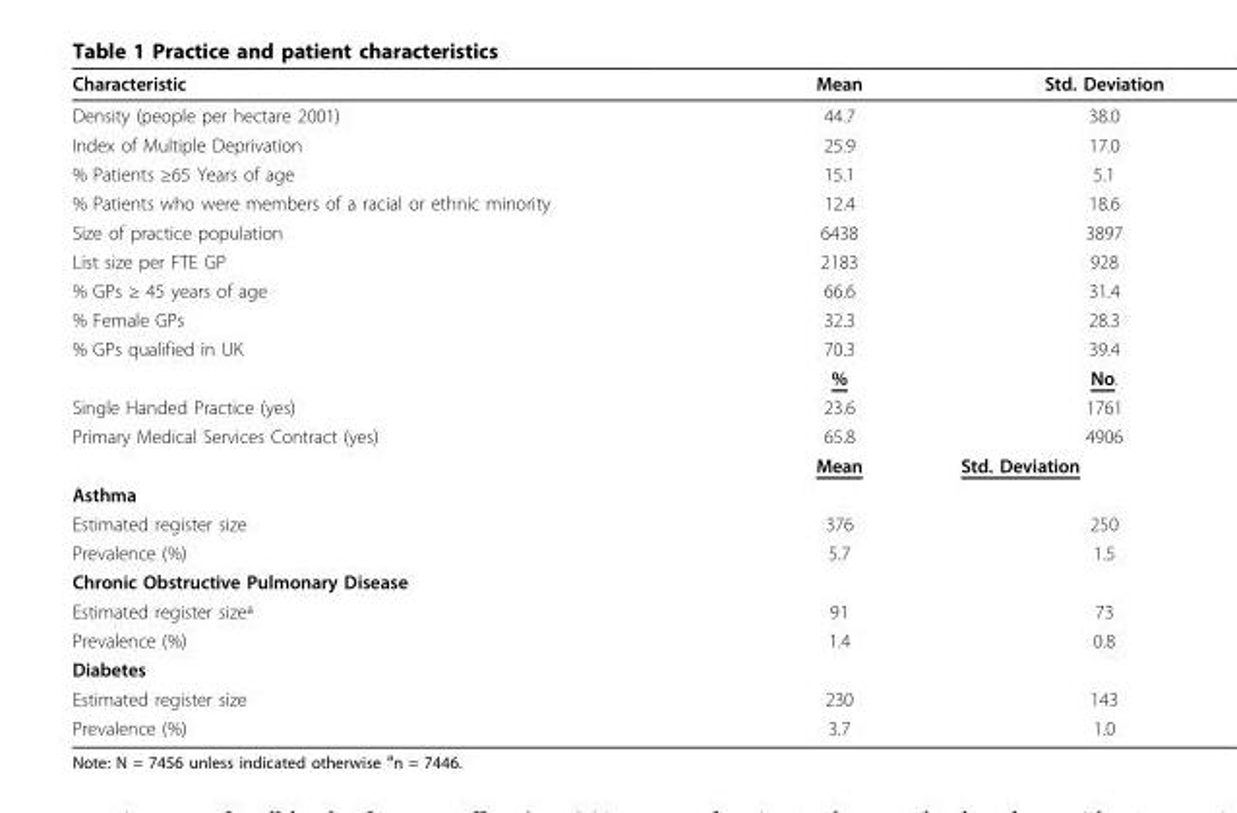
<table><thead><tr><td>Characteristic</td><td>Mean</td><td>Std. Deviation</td></tr></thead><tbody><tr><td>Density (people per hectare 2001)</td><td>44.7</td><td>38.0</td></tr><tr><td>Index of Multiple Deprivation</td><td>25.9</td><td>17.0</td></tr><tr><td>% Patients ≥65 Years of age</td><td>15.1</td><td>5.1</td></tr><tr><td>% Patients who were members of a racial or ethnic minority</td><td>12.4</td><td>18.6</td></tr><tr><td>Size of practice population</td><td>6438</td><td>3897</td></tr><tr><td>List size per FTE GP</td><td>2183</td><td>928</td></tr><tr><td>% GPs ≥ 45 years of age</td><td>66.6</td><td>31.4</td></tr><tr><td>% Female GPs</td><td>32.3</td><td>28.3</td></tr><tr><td rowspan="2">% GPs qualified in UK</td><td>70.3</td><td>39.4</td></tr><tr><td>%</td><td>No.</td></tr><tr><td>Single Handed Practice (yes)</td><td>23.6</td><td>1761</td></tr><tr><td rowspan="2">Primary Medical Services Contract (yes)</td><td>65.8</td><td>4906</td></tr><tr><td>Mean</td><td>Std. Deviation</td></tr><tr><td colspan="3">Asthma</td></tr><tr><td>Estimated register size</td><td>376</td><td>250</td></tr><tr><td>Prevalence (%)</td><td>5.7</td><td>1.5</td></tr><tr><td colspan="3">Chronic Obstructive Pulmonary Disease</td></tr><tr><td>Estimated register sizeª</td><td>91</td><td>73</td></tr><tr><td>Prevalence (%)</td><td>1.4</td><td>0.8</td></tr><tr><td colspan="3">Diabetes</td></tr><tr><td>Estimated register size</td><td>230</td><td>143</td></tr><tr><td>Prevalence (%)</td><td>3.7</td><td>1.0</td></tr></tbody></table>